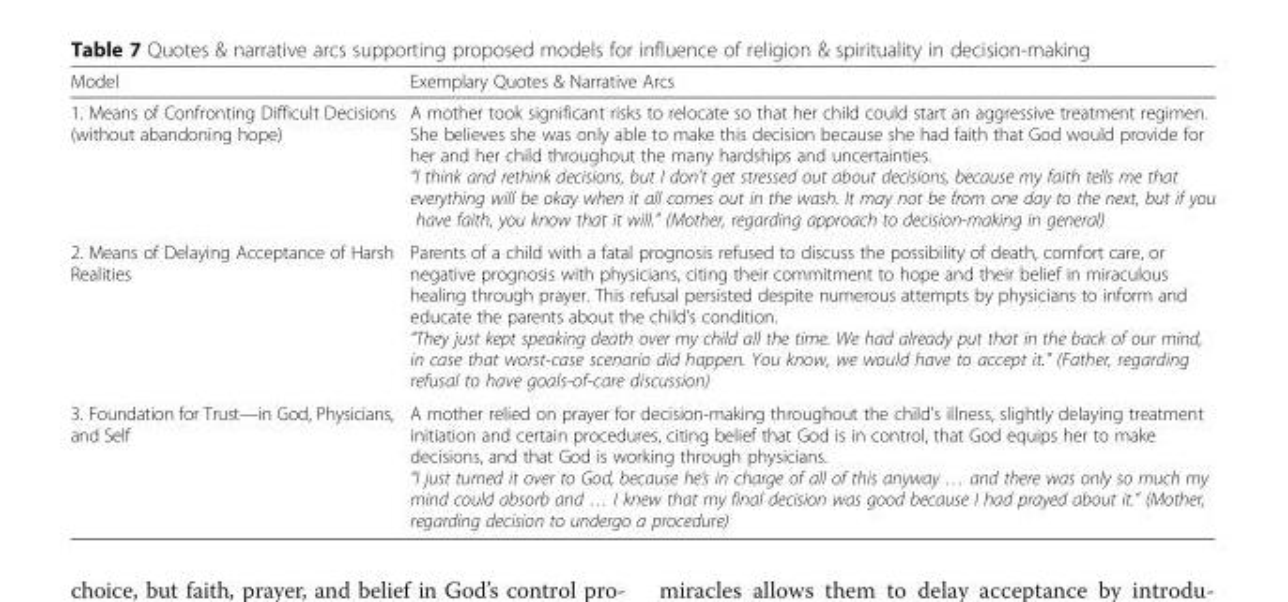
<table><thead><tr><td>Model</td><td>Exemplary Quotes &amp; Narrative Arcs</td></tr></thead><tbody><tr><td>1. Means of Confronting Difficult Decisions (without abandoning hope)</td><td>A mother took significant risks to relocate so that her child could start an aggressive treatment regimen. She believes she was only able to make this decision because she had faith that God would provide for her and her child throughout the many hardships and uncertainties. “I think and rethink decisions, but I don’t get stressed out about decisions, because my faith tells me that everything will be okay when it all comes out in the wash. It may not be from one day to the next, but if you have faith, you know that it will.” (Mother, regarding approach to decision-making in general)</td></tr><tr><td>2. Means of Delaying Acceptance of Harsh Realities</td><td>Parents of a child with a fatal prognosis refused to discuss the possibility of death, comfort care, or negative prognosis with physicians, citing their commitment to hope and their belief in miraculous healing through prayer. This refusal persisted despite numerous attempts by physicians to inform and educate the parents about the child’s condition. “They just kept speaking death over my child all the time. We had already put that in the back of our mind, in case that worst-case scenario did happen. You know, we would have to accept it.” (Father, regarding refusal to have goals-of-care discussion)</td></tr><tr><td>3. Foundation for Trust—in God, Physicians, and Self</td><td>A mother relied on prayer for decision-making throughout the child’s illness, slightly delaying treatment initiation and certain procedures, citing belief that God is in control, that God equips her to make decisions, and that God is working through physicians. “I just turned it over to God, because he’s in charge of all of this anyway … and there was only so much my mind could absorb and … I knew that my final decision was good because I had prayed about it.” (Mother, regarding decision to undergo a procedure)</td></tr></tbody></table>